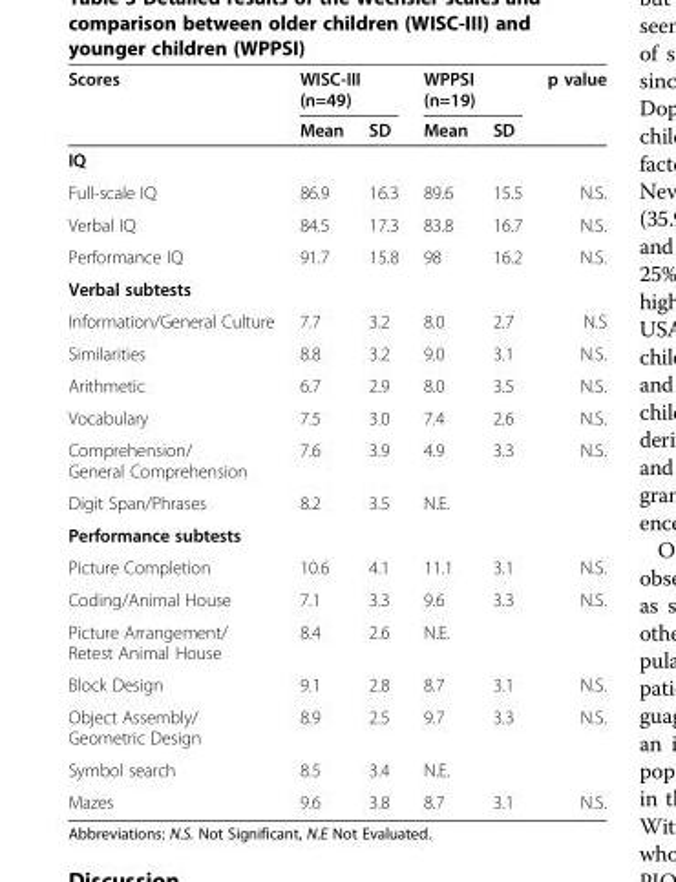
<table><thead><tr><td rowspan="2">Scores</td><td colspan="2">WISC-III (n=49)</td><td colspan="2">WPPSI (n=19)</td><td rowspan="2">p value</td></tr><tr><td>Mean</td><td>SD</td><td>Mean</td><td>SD</td></tr></thead><tbody><tr><td colspan="6">IQ</td></tr><tr><td>Full-scale IQ</td><td>86.9</td><td>16.3</td><td>89.6</td><td>15.5</td><td>N.S.</td></tr><tr><td>Verbal IQ</td><td>84.5</td><td>17.3</td><td>83.8</td><td>16.7</td><td>N.S.</td></tr><tr><td>Performance IQ</td><td>91.7</td><td>15.8</td><td>98</td><td>16.2</td><td>N.S.</td></tr><tr><td colspan="6">Verbal subtests</td></tr><tr><td>Information/General Culture</td><td>7.7</td><td>3.2</td><td>8.0</td><td>2.7</td><td>N.S</td></tr><tr><td>Similarities</td><td>8.8</td><td>3.2</td><td>9.0</td><td>3.1</td><td>N.S.</td></tr><tr><td>Arithmetic</td><td>6.7</td><td>2.9</td><td>8.0</td><td>3.5</td><td>N.S.</td></tr><tr><td>Vocabulary</td><td>7.5</td><td>3.0</td><td>7.4</td><td>2.6</td><td>N.S.</td></tr><tr><td>Comprehension/ General Comprehension</td><td>7.6</td><td>3.9</td><td>4.9</td><td>3.3</td><td>N.S.</td></tr><tr><td>Digit Span/Phrases</td><td>8.2</td><td>3.5</td><td>N.E.</td><td></td><td></td></tr><tr><td colspan="6">Performance subtests</td></tr><tr><td>Picture Completion</td><td>10.6</td><td>4.1</td><td>11.1</td><td>3.1</td><td>N.S.</td></tr><tr><td>Coding/Animal House</td><td>7.1</td><td>3.3</td><td>9.6</td><td>3.3</td><td>N.S.</td></tr><tr><td>Picture Arrangement/ Retest Animal House</td><td>8.4</td><td>2.6</td><td>N.E.</td><td></td><td></td></tr><tr><td>Block Design</td><td>9.1</td><td>2.8</td><td>8.7</td><td>3.1</td><td>N.S.</td></tr><tr><td>Object Assembly/ Geometric Design</td><td>8.9</td><td>2.5</td><td>9.7</td><td>3.3</td><td>N.S.</td></tr><tr><td>Symbol search</td><td>8.5</td><td>3.4</td><td>N.E.</td><td></td><td></td></tr><tr><td>Mazes</td><td>9.6</td><td>3.8</td><td>8.7</td><td>3.1</td><td>N.S.</td></tr></tbody></table>